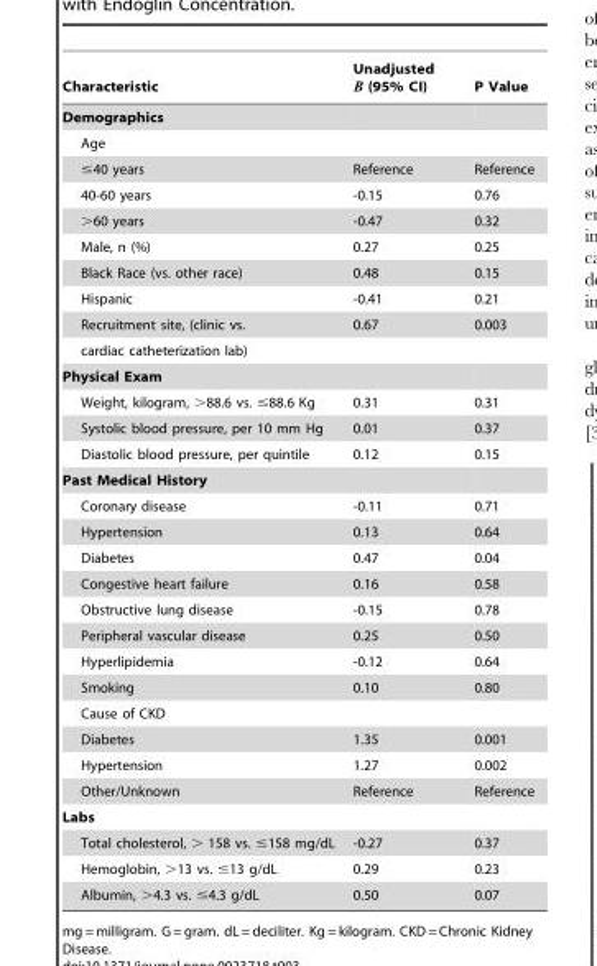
<table><thead><tr><td>Characteristic</td><td>Unadjusted B (95% CI)</td><td>P Value</td></tr></thead><tbody><tr><td colspan="3">Demographics</td></tr><tr><td colspan="3">Age</td></tr><tr><td>≤40 years</td><td>Reference</td><td>Reference</td></tr><tr><td>40-60 years</td><td>-0.15</td><td>0.76</td></tr><tr><td>&gt;60 years</td><td>-0.47</td><td>0.32</td></tr><tr><td>Male, n (%)</td><td>0.27</td><td>0.25</td></tr><tr><td>Black Race (vs. other race)</td><td>0.48</td><td>0.15</td></tr><tr><td>Hispanic</td><td>-0.41</td><td>0.21</td></tr><tr><td>Recruitment site, (clinic vs.</td><td>0.67</td><td>0.003</td></tr><tr><td colspan="3">cardiac catheterization lab)</td></tr><tr><td colspan="3">Physical Exam</td></tr><tr><td>Weight, kilogram, &gt;88.6 vs. ≤88.6 Kg</td><td>0.31</td><td>0.31</td></tr><tr><td>Systolic blood pressure, per 10 mm Hg</td><td>0.01</td><td>0.37</td></tr><tr><td>Diastolic blood pressure, per quintile</td><td>0.12</td><td>0.15</td></tr><tr><td colspan="3">Past Medical History</td></tr><tr><td>Coronary disease</td><td>-0.11</td><td>0.71</td></tr><tr><td>Hypertension</td><td>0.13</td><td>0.64</td></tr><tr><td>Diabetes</td><td>0.47</td><td>0.04</td></tr><tr><td>Congestive heart failure</td><td>0.16</td><td>0.58</td></tr><tr><td>Obstructive lung disease</td><td>-0.15</td><td>0.78</td></tr><tr><td>Peripheral vascular disease</td><td>0.25</td><td>0.50</td></tr><tr><td>Hyperlipidemia</td><td>-0.12</td><td>0.64</td></tr><tr><td>Smoking</td><td>0.10</td><td>0.80</td></tr><tr><td colspan="3">Cause of CKD</td></tr><tr><td>Diabetes</td><td>1.35</td><td>0.001</td></tr><tr><td>Hypertension</td><td>1.27</td><td>0.002</td></tr><tr><td>Other/Unknown</td><td>Reference</td><td>Reference</td></tr><tr><td colspan="3">Labs</td></tr><tr><td>Total cholesterol, &gt; 158 vs. ≤158 mg/dL</td><td>-0.27</td><td>0.37</td></tr><tr><td>Hemoglobin, &gt;13 vs. ≤13 g/dL</td><td>0.29</td><td>0.23</td></tr><tr><td>Albumin, &gt;4.3 vs. ≤4.3 g/dL</td><td>0.50</td><td>0.07</td></tr></tbody></table>